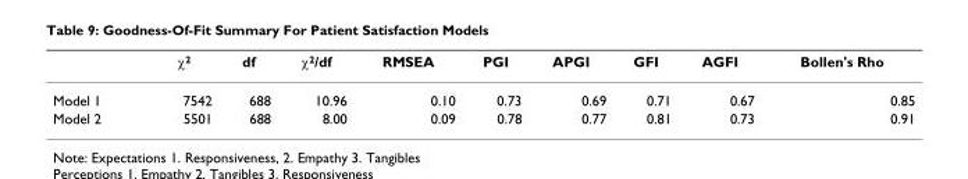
<table><thead><tr><td></td><td>χ<sup>2</sup></td><td>df</td><td>χ<sup>2</sup>/df</td><td>RMSEA</td><td>PGI</td><td>APGI</td><td>GFI</td><td>AGFI</td><td>Bollen&#x27;s Rho</td></tr></thead><tbody><tr><td>Model 1</td><td>7542</td><td>688</td><td>10.96</td><td>0.10</td><td>0.73</td><td>0.69</td><td>0.71</td><td>0.67</td><td>0.85</td></tr><tr><td>Model 2</td><td>5501</td><td>688</td><td>8.00</td><td>0.09</td><td>0.78</td><td>0.77</td><td>0.81</td><td>0.73</td><td>0.91</td></tr></tbody></table>